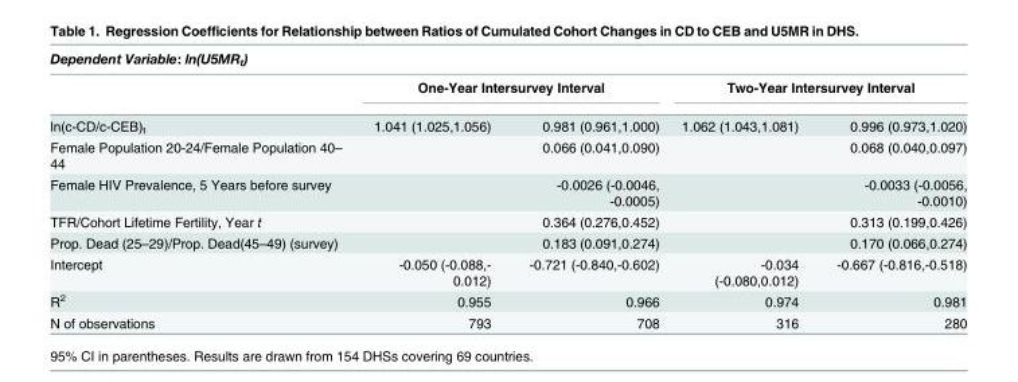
<table><thead><tr><td colspan="5">Dependent Variable: ln(U5MR<sub>t</sub>)</td></tr><tr><td rowspan="2">ln(c-CD/c-CEB)<sub>t</sub></td><td colspan="2">One-Year Intersurvey Interval</td><td colspan="2">Two-Year Intersurvey Interval</td></tr><tr><td>1.041 (1.025,1.056)</td><td>0.981 (0.961,1.000)</td><td>1.062 (1.043,1.081)</td><td>0.996 (0.973,1.020)</td></tr></thead><tbody><tr><td>Female Population 20-24/Female Population 40– 44</td><td></td><td>0.066 (0.041,0.090)</td><td></td><td>0.068 (0.040,0.097)</td></tr><tr><td>Female HIV Prevalence, 5 Years before survey</td><td></td><td>-0.0026 (-0.0046, -0.0005)</td><td></td><td>-0.0033 (-0.0056, -0.0010)</td></tr><tr><td>TFR/Cohort Lifetime Fertility, Year t</td><td></td><td>0.364 (0.276,0.452)</td><td></td><td>0.313 (0.199,0.426)</td></tr><tr><td>Prop. Dead (25–29)/Prop. Dead(45–49) (survey)</td><td></td><td>0.183 (0.091,0.274)</td><td></td><td>0.170 (0.066,0.274)</td></tr><tr><td>Intercept</td><td>-0.050 (-0.088,- 0.012)</td><td>-0.721 (-0.840,-0.602)</td><td>-0.034 (-0.080,0.012)</td><td>-0.667 (-0.816,-0.518)</td></tr><tr><td>R<sup>2</sup></td><td>0.955</td><td>0.966</td><td>0.974</td><td>0.981</td></tr><tr><td>N of observations</td><td>793</td><td>708</td><td>316</td><td>280</td></tr></tbody></table>